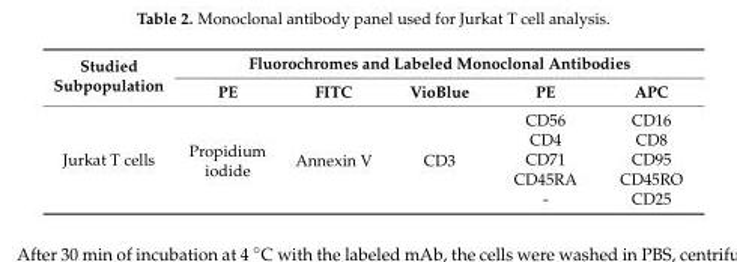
<table><thead><tr><td rowspan="2">Studied Subpopulation</td><td colspan="5">Fluorochromes and Labeled Monoclonal Antibodies</td></tr><tr><td>PE</td><td>FITC</td><td>VioBlue</td><td>PE</td><td>APC</td></tr></thead><tbody><tr><td rowspan="5">Jurkat T cells</td><td rowspan="5">Propidium iodide</td><td rowspan="5">Annexin V</td><td rowspan="5">CD3</td><td>CD56</td><td>CD16</td></tr><tr><td>CD4</td><td>CD8</td></tr><tr><td>CD71</td><td>CD95</td></tr><tr><td>CD45RA</td><td>CD45RO</td></tr><tr><td>-</td><td>CD25</td></tr></tbody></table>